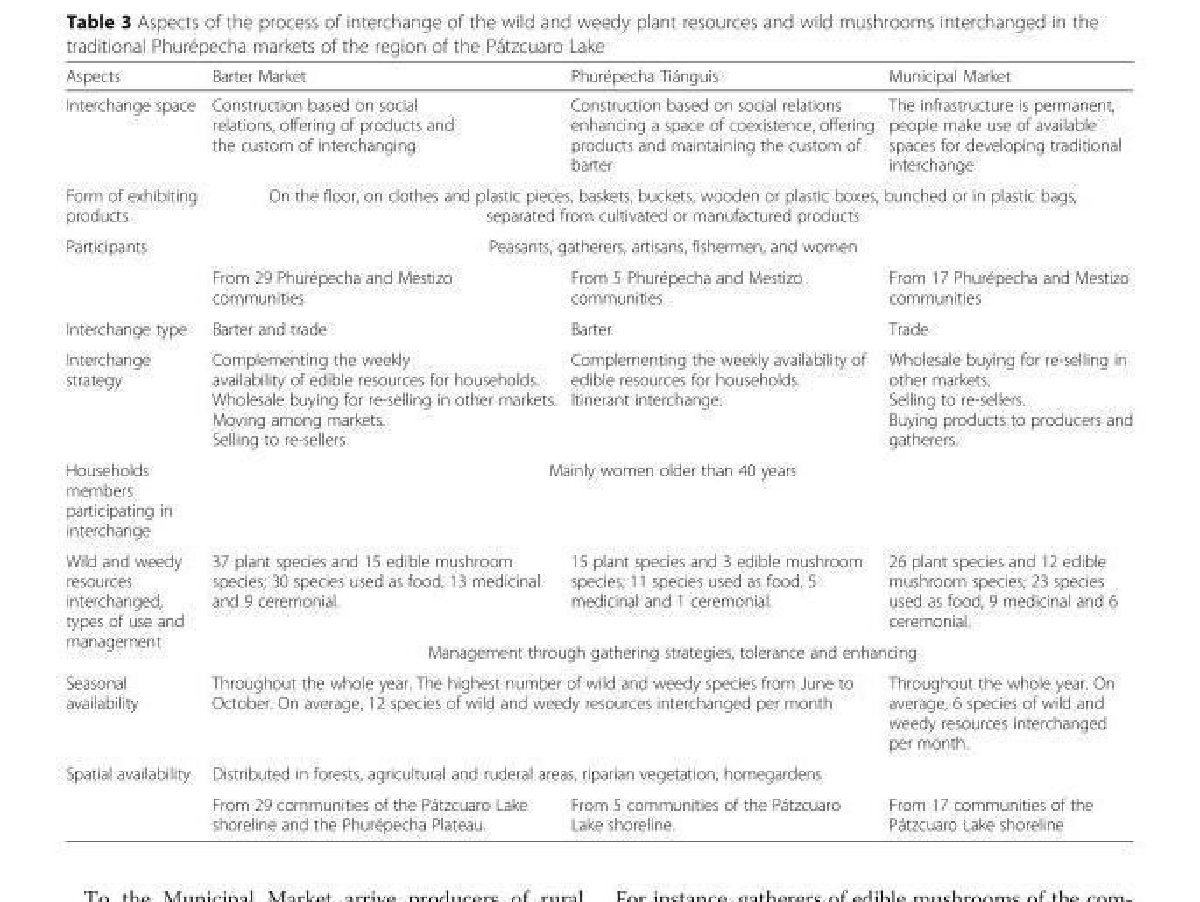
<table><thead><tr><td>Aspects</td><td>Barter Market</td><td>Phurépecha Tiánguis</td><td>Municipal Market</td></tr></thead><tbody><tr><td>Interchange space</td><td>Construction based on social relations, offering of products and the custom of interchanging</td><td>Construction based on social relations enhancing a space of coexistence, offering products and maintaining the custom of barter</td><td>The infrastructure is permanent, people make use of available spaces for developing traditional interchange</td></tr><tr><td>Form of exhibiting products</td><td colspan="3">On the floor, on clothes and plastic pieces, baskets, buckets, wooden or plastic boxes, bunched or in plastic bags, separated from cultivated or manufactured products</td></tr><tr><td rowspan="2">Participants</td><td colspan="3">Peasants, gatherers, artisans, fishermen, and women</td></tr><tr><td>From 29 Phurépecha and Mestizo communities</td><td>From 5 Phurépecha and Mestizo communities</td><td>From 17 Phurépecha and Mestizo communities</td></tr><tr><td>Interchange type</td><td>Barter and trade</td><td>Barter</td><td>Trade</td></tr><tr><td>Interchange strategy</td><td>Complementing the weekly availability of edible resources for households. Wholesale buying for re-selling in other markets. Moving among markets. Selling to re-sellers</td><td>Complementing the weekly availability of edible resources for households. Itinerant interchange.</td><td>Wholesale buying for re-selling in other markets. Selling to re-sellers. Buying products to producers and gatherers.</td></tr><tr><td>Households members participating in interchange</td><td colspan="3">Mainly women older than 40 years</td></tr><tr><td rowspan="2">Wild and weedy resources interchanged, types of use and management</td><td>37 plant species and 15 edible mushroom species; 30 species used as food, 13 medicinal and 9 ceremonial.</td><td>15 plant species and 3 edible mushroom species; 11 species used as food, 5 medicinal and 1 ceremonial.</td><td>26 plant species and 12 edible mushroom species; 23 species used as food, 9 medicinal and 6 ceremonial.</td></tr><tr><td colspan="3">Management through gathering strategies, tolerance and enhancing</td></tr><tr><td>Seasonal availability</td><td colspan="2">Throughout the whole year. The highest number of wild and weedy species from June to October. On average, 12 species of wild and weedy resources interchanged per month</td><td>Throughout the whole year. On average, 6 species of wild and weedy resources interchanged per month.</td></tr><tr><td rowspan="2">Spatial availability</td><td colspan="3">Distributed in forests, agricultural and ruderal areas, riparian vegetation, homegardens</td></tr><tr><td>From 29 communities of the Pátzcuaro Lake shoreline and the Phurépecha Plateau.</td><td>From 5 communities of the Pátzcuaro Lake shoreline.</td><td>From 17 communities of the Pátzcuaro Lake shoreline</td></tr></tbody></table>